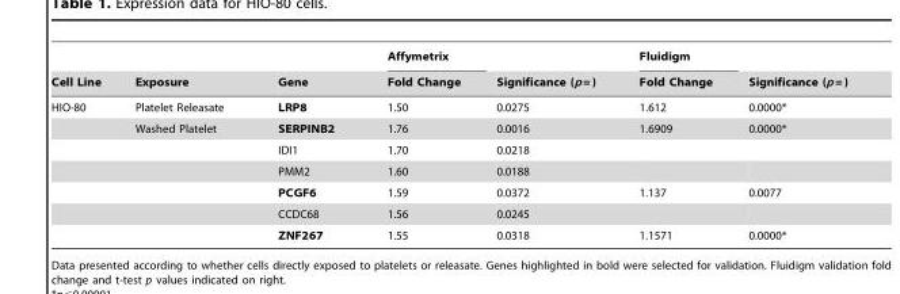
<table><thead><tr><td rowspan="2">Cell Line</td><td rowspan="2">Exposure</td><td rowspan="2">Gene</td><td rowspan="2">Affymetrix Fold Change</td><td rowspan="2">Significance (p = )</td><td rowspan="2">Fluidigm Fold Change</td><td rowspan="2">Significance (p = )</td></tr><tr></tr></thead><tbody><tr><td rowspan="7">HIO-80</td><td>Platelet Releasate</td><td>LRP8</td><td>1.50</td><td>0.0275</td><td>1.612</td><td>0.0000*</td></tr><tr><td>Washed Platelet</td><td>SERPINB2</td><td>1.76</td><td>0.0016</td><td>1.6909</td><td>0.0000*</td></tr><tr><td></td><td>IDI1</td><td>1.70</td><td>0.0218</td><td></td><td></td></tr><tr><td></td><td>PMM2</td><td>1.60</td><td>0.0188</td><td></td><td></td></tr><tr><td></td><td>PCGF6</td><td>1.59</td><td>0.0372</td><td>1.137</td><td>0.0077</td></tr><tr><td></td><td>CCDC68</td><td>1.56</td><td>0.0245</td><td></td><td></td></tr><tr><td></td><td>ZNF267</td><td>1.55</td><td>0.0318</td><td>1.1571</td><td>0.0000*</td></tr></tbody></table>